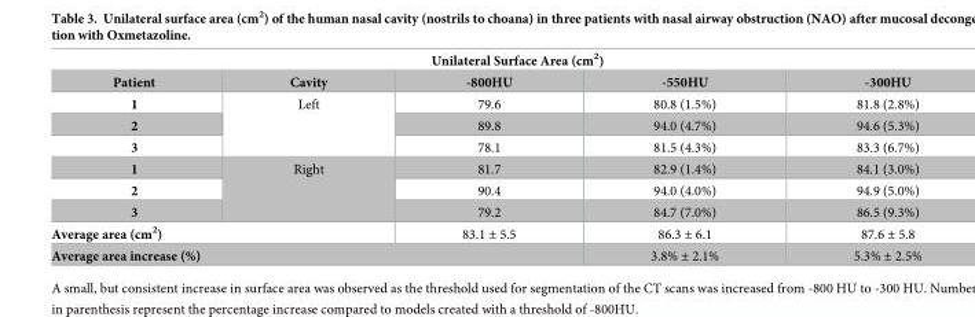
<table><thead><tr><td colspan="5">Unilateral Surface Area (cm<sup>2</sup>)</td></tr><tr><td>Patient</td><td>Cavity</td><td>-800HU</td><td>-550HU</td><td>-300HU</td></tr></thead><tbody><tr><td>1</td><td rowspan="3">Left</td><td>79.6</td><td>80.8 (1.5%)</td><td>81.8 (2.8%)</td></tr><tr><td>2</td><td>89.8</td><td>94.0 (4.7%)</td><td>94.6 (5.3%)</td></tr><tr><td>3</td><td>78.1</td><td>81.5 (4.3%)</td><td>83.3 (6.7%)</td></tr><tr><td>1</td><td rowspan="3">Right</td><td>81.7</td><td>82.9 (1.4%)</td><td>84.1 (3.0%)</td></tr><tr><td>2</td><td>90.4</td><td>94.0 (4.0%)</td><td>94.9 (5.0%)</td></tr><tr><td>3</td><td>79.2</td><td>84.7 (7.0%)</td><td>86.5 (9.3%)</td></tr><tr><td colspan="2">Average area (cm<sup>2</sup>)</td><td>83.1 ± 5.5</td><td>86.3 ± 6.1</td><td>87.6 ± 5.8</td></tr><tr><td colspan="3">Average area increase (%)</td><td>3.8% ± 2.1%</td><td>5.3% ± 2.5%</td></tr></tbody></table>